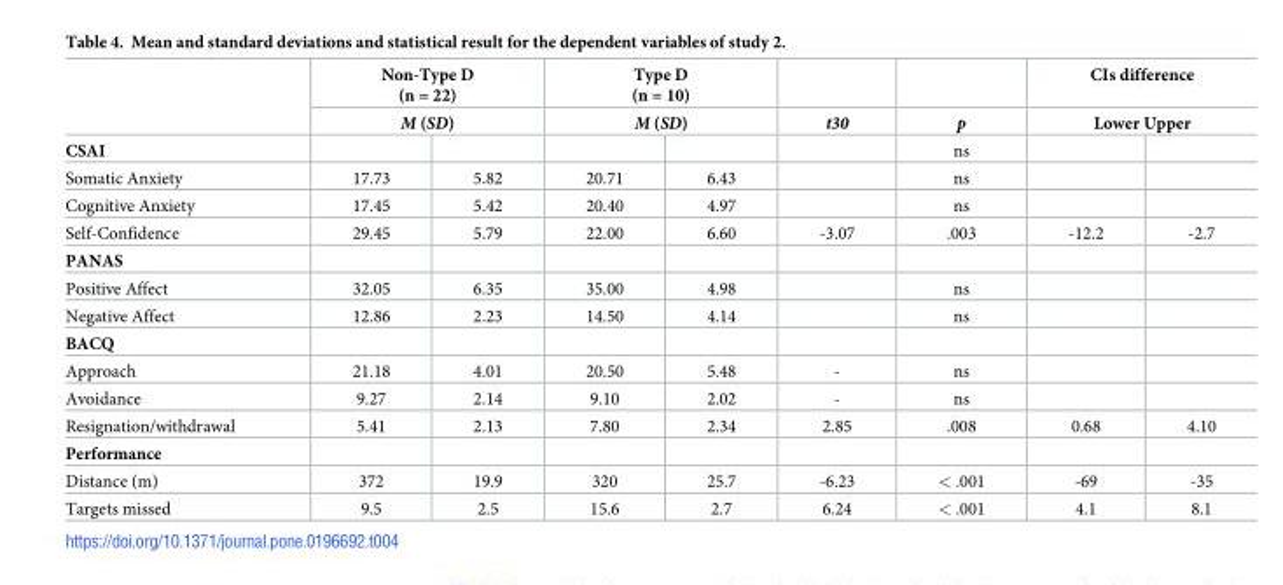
<table><thead><tr><td rowspan="3">CSAI</td><td rowspan="2" colspan="2">Non-Type D (n = 22) M (SD)</td><td rowspan="2" colspan="2">Type D (n = 10) M (SD)</td><td rowspan="3">t30</td><td rowspan="3">p ns</td><td rowspan="2" colspan="2">CIs difference Lower Upper</td></tr><tr></tr><tr><td></td><td></td><td></td><td></td><td></td><td></td></tr></thead><tbody><tr><td>Somatic Anxiety</td><td>17.73</td><td>5.82</td><td>20.71</td><td>6.43</td><td></td><td>ns</td><td></td><td></td></tr><tr><td>Cognitive Anxiety</td><td>17.45</td><td>5.42</td><td>20.40</td><td>4.97</td><td></td><td>ns</td><td></td><td></td></tr><tr><td>Self-Confidence</td><td>29.45</td><td>5.79</td><td>22.00</td><td>6.60</td><td>-3.07</td><td>.003</td><td>-12.2</td><td>-2.7</td></tr><tr><td colspan="9">PANAS</td></tr><tr><td>Positive Affect</td><td>32.05</td><td>6.35</td><td>35.00</td><td>4.98</td><td></td><td>ns</td><td></td><td></td></tr><tr><td>Negative Affect</td><td>12.86</td><td>2.23</td><td>14.50</td><td>4.14</td><td></td><td>ns</td><td></td><td></td></tr><tr><td colspan="9">BACQ</td></tr><tr><td>Approach</td><td>21.18</td><td>4.01</td><td>20.50</td><td>5.48</td><td>-</td><td>ns</td><td></td><td></td></tr><tr><td>Avoidance</td><td>9.27</td><td>2.14</td><td>9.10</td><td>2.02</td><td>-</td><td>ns</td><td></td><td></td></tr><tr><td>Resignation/withdrawal</td><td>5.41</td><td>2.13</td><td>7.80</td><td>2.34</td><td>2.85</td><td>.008</td><td>0.68</td><td>4.10</td></tr><tr><td colspan="9">Performance</td></tr><tr><td>Distance (m)</td><td>372</td><td>19.9</td><td>320</td><td>25.7</td><td>-6.23</td><td>&lt; .001</td><td>-69</td><td>-35</td></tr><tr><td>Targets missed</td><td>9.5</td><td>2.5</td><td>15.6</td><td>2.7</td><td>6.24</td><td>&lt; .001</td><td>4.1</td><td>8.1</td></tr></tbody></table>